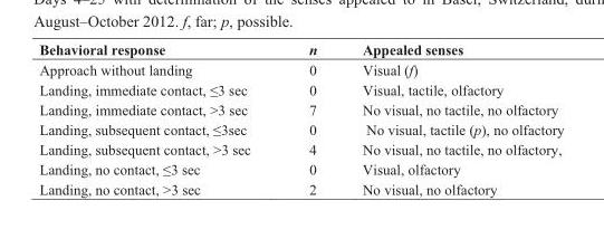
<table><thead><tr><td>Behavioral response</td><td>n</td><td>Appealed senses</td></tr></thead><tbody><tr><td>Approach without landing</td><td>0</td><td>Visual (f)</td></tr><tr><td>Landing, immediate contact, ≤3 sec</td><td>0</td><td>Visual, tactile, olfactory</td></tr><tr><td>Landing, immediate contact, &gt;3 sec</td><td>7</td><td>No visual, no tactile, no olfactory</td></tr><tr><td>Landing, subsequent contact, ≤3sec</td><td>0</td><td>No visual, tactile (p), no olfactory</td></tr><tr><td>Landing, subsequent contact, &gt;3 sec</td><td>4</td><td>No visual, no tactile, no olfactory,</td></tr><tr><td>Landing, no contact, ≤3 sec</td><td>0</td><td>Visual, olfactory</td></tr><tr><td>Landing, no contact, &gt;3 sec</td><td>2</td><td>No visual, no olfactory</td></tr></tbody></table>